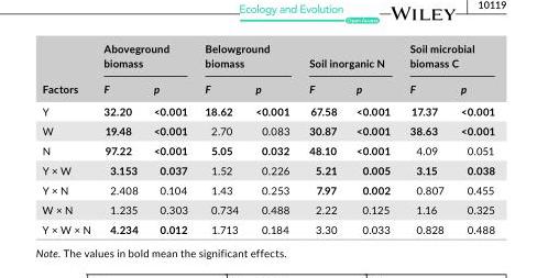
<table><thead><tr><td rowspan="2">Factors</td><td colspan="2">Aboveground biomass</td><td colspan="2">Belowground biomass</td><td colspan="2">Soil inorganic N</td><td colspan="2">Soil microbial biomass C</td></tr><tr><td>F</td><td>p</td><td>F</td><td>p</td><td>F</td><td>p</td><td>F</td><td>p</td></tr></thead><tbody><tr><td>Y</td><td>32.20</td><td>&lt;0.001</td><td>18.62</td><td>&lt;0.001</td><td>67.58</td><td>&lt;0.001</td><td>17.37</td><td>&lt;0.001</td></tr><tr><td>W</td><td>19.48</td><td>&lt;0.001</td><td>2.70</td><td>0.083</td><td>30.87</td><td>&lt;0.001</td><td>38.63</td><td>&lt;0.001</td></tr><tr><td>N</td><td>97.22</td><td>&lt;0.001</td><td>5.05</td><td>0.032</td><td>48.10</td><td>&lt;0.001</td><td>4.09</td><td>0.051</td></tr><tr><td>Y × W</td><td>3.153</td><td>0.037</td><td>1.52</td><td>0.226</td><td>5.21</td><td>0.005</td><td>3.15</td><td>0.038</td></tr><tr><td>Y × N</td><td>2.408</td><td>0.104</td><td>1.43</td><td>0.253</td><td>7.97</td><td>0.002</td><td>0.807</td><td>0.455</td></tr><tr><td>W × N</td><td>1.235</td><td>0.303</td><td>0.734</td><td>0.488</td><td>2.22</td><td>0.125</td><td>1.16</td><td>0.325</td></tr><tr><td>Y × W × N</td><td>4.234</td><td>0.012</td><td>1.713</td><td>0.184</td><td>3.30</td><td>0.033</td><td>0.828</td><td>0.488</td></tr></tbody></table>